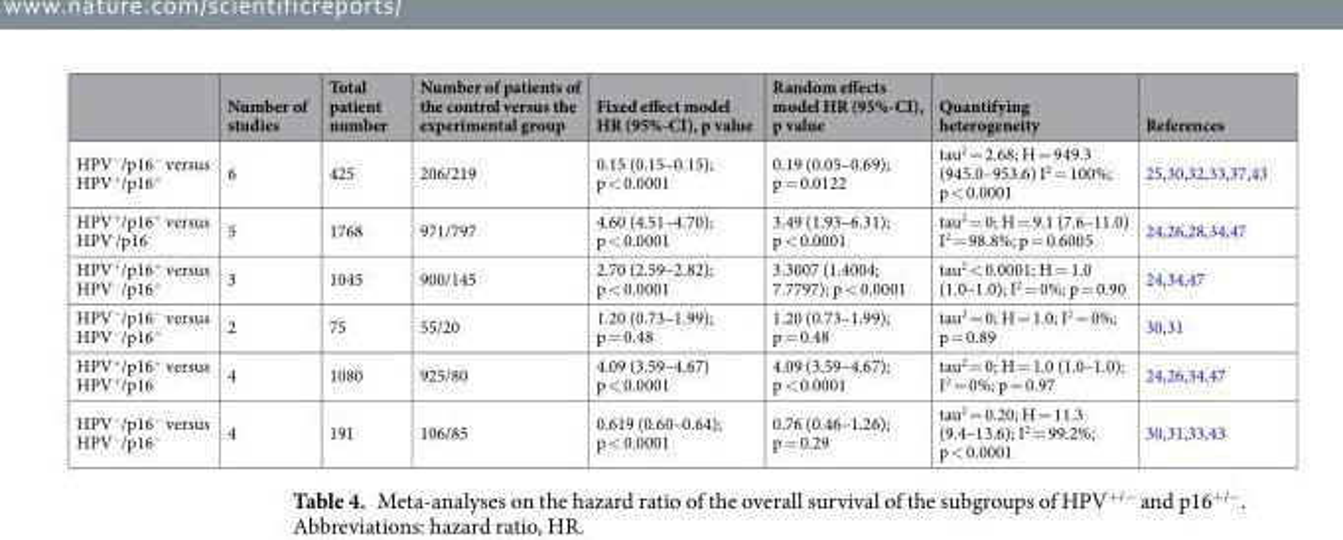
<table><thead><tr><td></td><td>Number of studies</td><td>Total patient number</td><td>Number of patients of the control versus the experimental group</td><td>Fixed effect model HR (95%-CI), p value</td><td>Random effects model HR (95%-CI), p value</td><td>Quantifying heterogeneity</td><td>References</td></tr></thead><tbody><tr><td>HPV<sup>−</sup>/p16<sup>−</sup> versus HPV<sup>+</sup>/p16<sup>+</sup></td><td>6</td><td>425</td><td>206/219</td><td>0.15 (0.15–0.15); p &lt; 0.0001</td><td>0.19 (0.05–0.69); p = 0.0122</td><td>tau<sup>2</sup> = 2.68; H = 949.3 (945.0–953.6) I<sup>2</sup> = 100%; p &lt; 0.0001</td><td>25,30,32,33,37,43</td></tr><tr><td>HPV<sup>+</sup>/p16<sup>+</sup> versus HPV<sup>-</sup>/p16<sup>-</sup></td><td>5</td><td>1768</td><td>971/797</td><td>4.60 (4.51–4.70); p &lt; 0.0001</td><td>3.49 (1.93–6.31); p &lt; 0.0001</td><td>tau<sup>2</sup> = 0; H = 9.1 (7.6–11.0) I<sup>2</sup> = 98.8%; p = 0.6005</td><td>24,26,28,34,47</td></tr><tr><td>HPV<sup>+</sup>/p16<sup>+</sup> versus HPV<sup>−</sup>/p16<sup>+</sup></td><td>3</td><td>1045</td><td>900/145</td><td>2.70 (2.59–2.82); p &lt; 0.0001</td><td>3.3007 (1.4004; 7.7797); p &lt; 0.0001</td><td>tau<sup>2</sup> &lt; 0.0001; H = 1.0 (1.0–1.0); I<sup>2</sup> = 0%; p = 0.90</td><td>24,34,47</td></tr><tr><td>HPV<sup>−</sup>/p16<sup>−</sup> versus HPV<sup>−</sup>/p16<sup>+</sup></td><td>2</td><td>75</td><td>55/20</td><td>1.20 (0.73–1.99); p = 0.48</td><td>1.20 (0.73–1.99); p = 0.48</td><td>tau<sup>2</sup> = 0; H = 1.0; I<sup>2</sup> = 0%; p = 0.89</td><td>30,31</td></tr><tr><td>HPV<sup>+</sup>/p16<sup>+</sup> versus HPV<sup>+</sup>/p16<sup>-</sup></td><td>4</td><td>1080</td><td>925/80</td><td>4.09 (3.59–4.67) p &lt; 0.0001</td><td>4.09 (3.59–4.67); p &lt; 0.0001</td><td>tau<sup>2</sup> = 0; H = 1.0 (1.0–1.0); I<sup>2</sup> = 0%; p = 0.97</td><td>24,26,34,47</td></tr><tr><td>HPV<sup>−</sup>/p16<sup>−</sup> versus HPV<sup>−</sup>/p16<sup>−</sup></td><td>4</td><td>191</td><td>106/85</td><td>0.619 (0.60–0.64); p &lt; 0.0001</td><td>0.76 (0.46–1.26); p = 0.29</td><td>tau<sup>2</sup> = 0.20; H = 11.3 (9.4–13.6); I<sup>2</sup> = 99.2%; p &lt; 0.0001</td><td>30,31,33,43</td></tr></tbody></table>